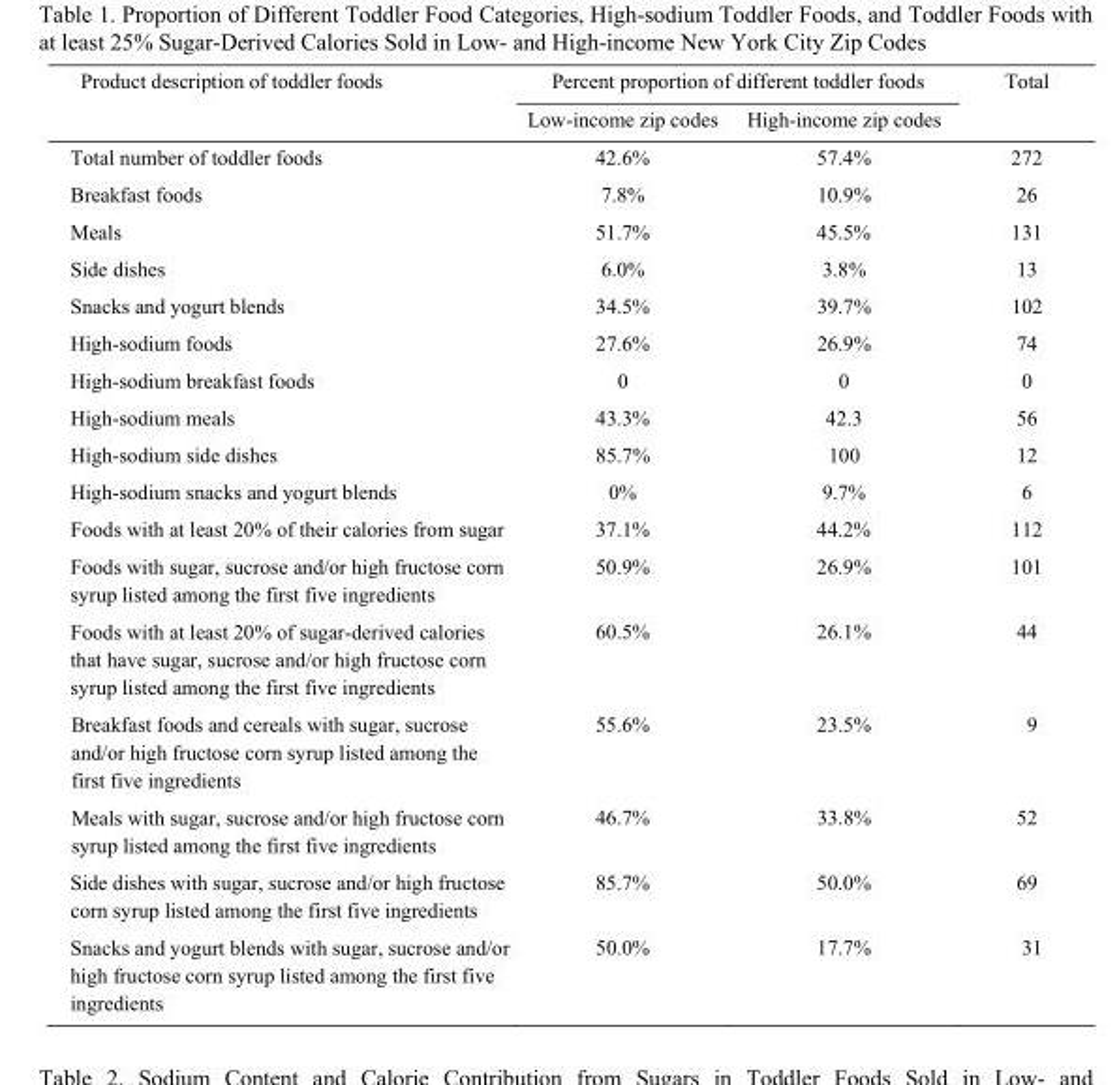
<table><thead><tr><td rowspan="2">Product description of toddler foods</td><td colspan="2">Percent proportion of different toddler foods</td><td rowspan="2">Total</td></tr><tr><td>Low-income zip codes</td><td>High-income zip codes</td></tr></thead><tbody><tr><td>Total number of toddler foods</td><td>42.6%</td><td>57.4%</td><td>272</td></tr><tr><td>Breakfast foods</td><td>7.8%</td><td>10.9%</td><td>26</td></tr><tr><td>Meals</td><td>51.7%</td><td>45.5%</td><td>131</td></tr><tr><td>Side dishes</td><td>6.0%</td><td>3.8%</td><td>13</td></tr><tr><td>Snacks and yogurt blends</td><td>34.5%</td><td>39.7%</td><td>102</td></tr><tr><td>High-sodium foods</td><td>27.6%</td><td>26.9%</td><td>74</td></tr><tr><td>High-sodium breakfast foods</td><td>0</td><td>0</td><td>0</td></tr><tr><td>High-sodium meals</td><td>43.3%</td><td>42.3</td><td>56</td></tr><tr><td>High-sodium side dishes</td><td>85.7%</td><td>100</td><td>12</td></tr><tr><td>High-sodium snacks and yogurt blends</td><td>0%</td><td>9.7%</td><td>6</td></tr><tr><td>Foods with at least 20% of their calories from sugar</td><td>37.1%</td><td>44.2%</td><td>112</td></tr><tr><td>Foods with sugar, sucrose and/or high fructose corn syrup listed among the first five ingredients</td><td>50.9%</td><td>26.9%</td><td>101</td></tr><tr><td>Foods with at least 20% of sugar-derived calories that have sugar, sucrose and/or high fructose corn syrup listed among the first five ingredients</td><td>60.5%</td><td>26.1%</td><td>44</td></tr><tr><td>Breakfast foods and cereals with sugar, sucrose and/or high fructose corn syrup listed among the first five ingredients</td><td>55.6%</td><td>23.5%</td><td>9</td></tr><tr><td>Meals with sugar, sucrose and/or high fructose corn syrup listed among the first five ingredients</td><td>46.7%</td><td>33.8%</td><td>52</td></tr><tr><td>Side dishes with sugar, sucrose and/or high fructose corn syrup listed among the first five ingredients</td><td>85.7%</td><td>50.0%</td><td>69</td></tr><tr><td>Snacks and yogurt blends with sugar, sucrose and/or high fructose corn syrup listed among the first five ingredients</td><td>50.0%</td><td>17.7%</td><td>31</td></tr></tbody></table>